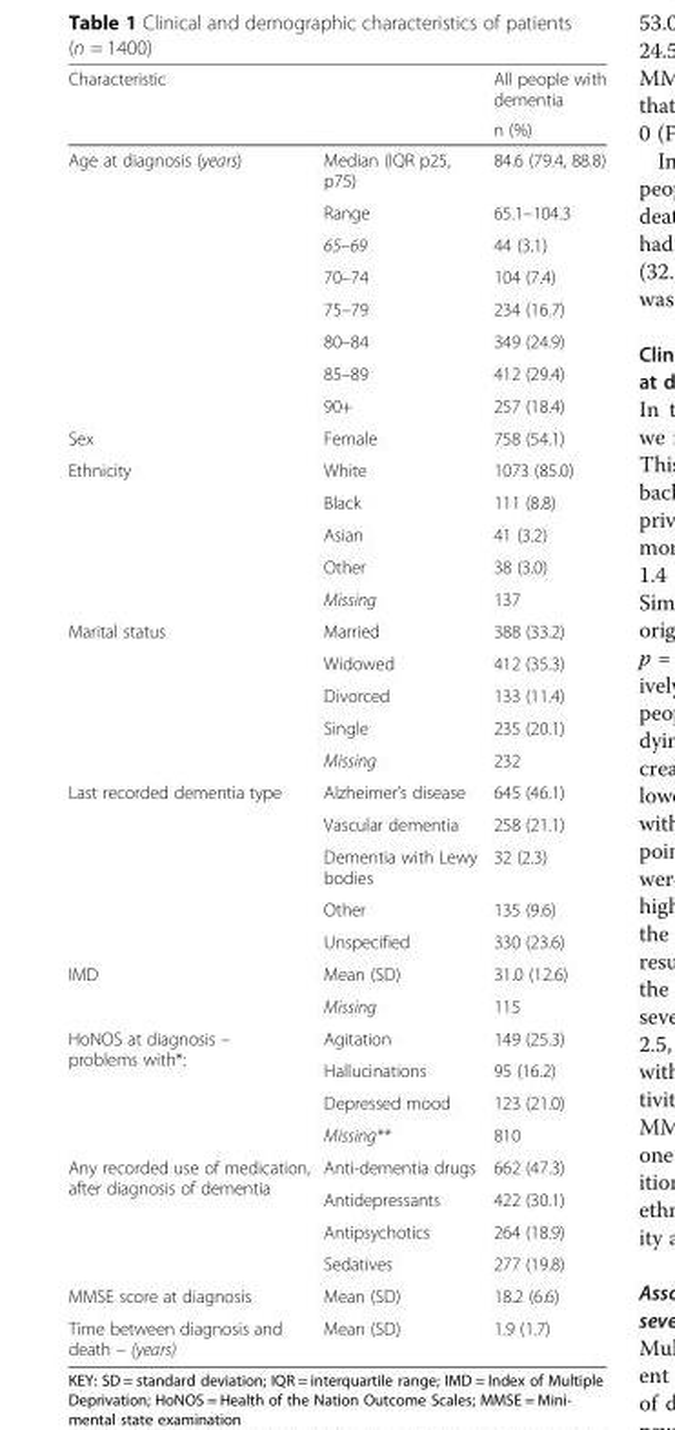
<table><thead><tr><td rowspan="2">Characteristic</td><td rowspan="2"></td><td rowspan="2">All people with dementia n (%)</td></tr><tr></tr></thead><tbody><tr><td rowspan="8">Age at diagnosis (years)</td><td>Median (IQR p25, p75)</td><td>84.6 (79.4, 88.8)</td></tr><tr><td>Range</td><td>65.1–104.3</td></tr><tr><td>65–69</td><td>44 (3.1)</td></tr><tr><td>70–74</td><td>104 (7.4)</td></tr><tr><td>75–79</td><td>234 (16.7)</td></tr><tr><td>80–84</td><td>349 (24.9)</td></tr><tr><td>85–89</td><td>412 (29.4)</td></tr><tr><td>90+</td><td>257 (18.4)</td></tr><tr><td>Sex</td><td>Female</td><td>758 (54.1)</td></tr><tr><td rowspan="5">Ethnicity</td><td>White</td><td>1073 (85.0)</td></tr><tr><td>Black</td><td>111 (8.8)</td></tr><tr><td>Asian</td><td>41 (3.2)</td></tr><tr><td>Other</td><td>38 (3.0)</td></tr><tr><td>Missing</td><td>137</td></tr><tr><td rowspan="5">Marital status</td><td>Married</td><td>388 (33.2)</td></tr><tr><td>Widowed</td><td>412 (35.3)</td></tr><tr><td>Divorced</td><td>133 (11.4)</td></tr><tr><td>Single</td><td>235 (20.1)</td></tr><tr><td>Missing</td><td>232</td></tr><tr><td rowspan="5">Last recorded dementia type</td><td>Alzheimer’s disease</td><td>645 (46.1)</td></tr><tr><td>Vascular dementia</td><td>258 (21.1)</td></tr><tr><td>Dementia with Lewy bodies</td><td>32 (2.3)</td></tr><tr><td>Other</td><td>135 (9.6)</td></tr><tr><td>Unspecified</td><td>330 (23.6)</td></tr><tr><td rowspan="2">IMD</td><td>Mean (SD)</td><td>31.0 (12.6)</td></tr><tr><td>Missing</td><td>115</td></tr><tr><td rowspan="4">HoNOS at diagnosis – problems with*:</td><td>Agitation</td><td>149 (25.3)</td></tr><tr><td>Hallucinations</td><td>95 (16.2)</td></tr><tr><td>Depressed mood</td><td>123 (21.0)</td></tr><tr><td>Missing**</td><td>810</td></tr><tr><td rowspan="4">Any recorded use of medication, after diagnosis of dementia</td><td>Anti-dementia drugs</td><td>662 (47.3)</td></tr><tr><td>Antidepressants</td><td>422 (30.1)</td></tr><tr><td>Antipsychotics</td><td>264 (18.9)</td></tr><tr><td>Sedatives</td><td>277 (19.8)</td></tr><tr><td>MMSE score at diagnosis</td><td>Mean (SD)</td><td>18.2 (6.6)</td></tr><tr><td>Time between diagnosis and death – (years)</td><td>Mean (SD)</td><td>1.9 (1.7)</td></tr></tbody></table>